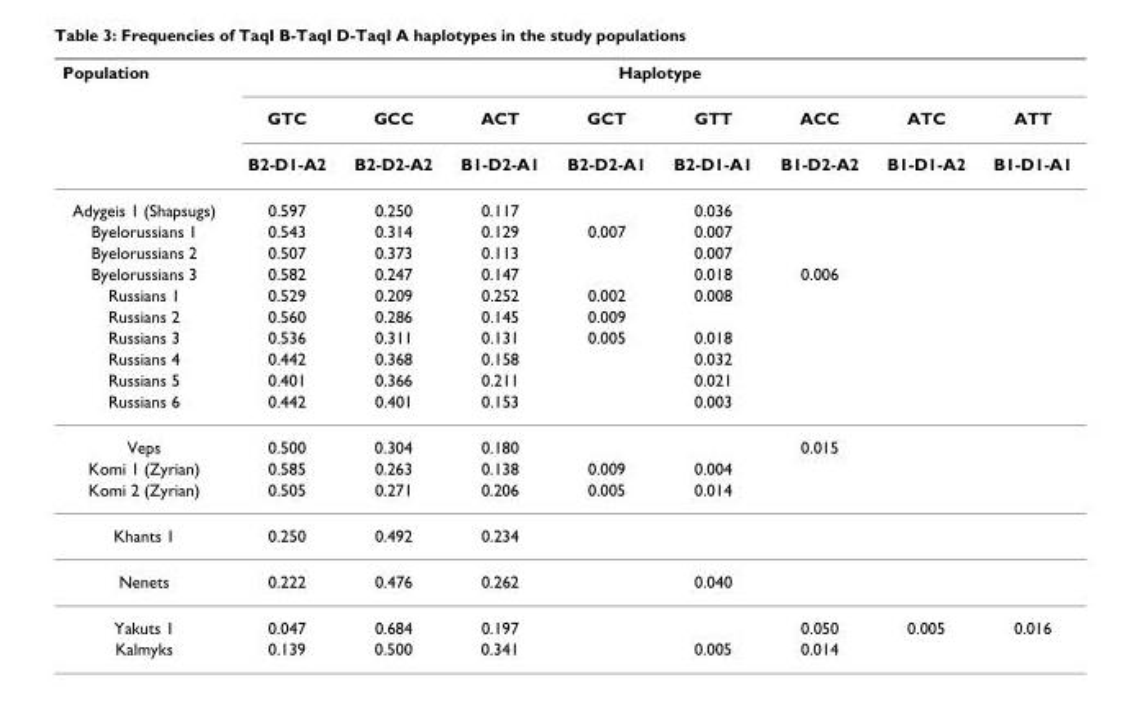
<table><thead><tr><td rowspan="3">Population</td><td colspan="8">Haplotype</td></tr><tr><td rowspan="2">GTC B2-D1-A2</td><td rowspan="2">GCC B2-D2-A2</td><td rowspan="2">ACT B1-D2-A1</td><td rowspan="2">GCT B2-D2-A1</td><td rowspan="2">GTT B2-D1-A1</td><td rowspan="2">ACC B1-D2-A2</td><td rowspan="2">ATC B1-D1-A2</td><td rowspan="2">ATT B1-D1-A1</td></tr><tr></tr></thead><tbody><tr><td>Adygeis 1 (Shapsugs)</td><td>0.597</td><td>0.250</td><td>0.117</td><td></td><td>0.036</td><td></td><td></td><td></td></tr><tr><td>Byelorussians 1</td><td>0.543</td><td>0.314</td><td>0.129</td><td>0.007</td><td>0.007</td><td></td><td></td><td></td></tr><tr><td>Byelorussians 2</td><td>0.507</td><td>0.373</td><td>0.113</td><td></td><td>0.007</td><td></td><td></td><td></td></tr><tr><td>Byelorussians 3</td><td>0.582</td><td>0.247</td><td>0.147</td><td></td><td>0.018</td><td>0.006</td><td></td><td></td></tr><tr><td>Russians 1</td><td>0.529</td><td>0.209</td><td>0.252</td><td>0.002</td><td>0.008</td><td></td><td></td><td></td></tr><tr><td>Russians 2</td><td>0.560</td><td>0.286</td><td>0.145</td><td>0.009</td><td></td><td></td><td></td><td></td></tr><tr><td>Russians 3</td><td>0.536</td><td>0.311</td><td>0.131</td><td>0.005</td><td>0.018</td><td></td><td></td><td></td></tr><tr><td>Russians 4</td><td>0.442</td><td>0.368</td><td>0.158</td><td></td><td>0.032</td><td></td><td></td><td></td></tr><tr><td>Russians 5</td><td>0.401</td><td>0.366</td><td>0.211</td><td></td><td>0.021</td><td></td><td></td><td></td></tr><tr><td>Russians 6</td><td>0.442</td><td>0.401</td><td>0.153</td><td></td><td>0.003</td><td></td><td></td><td></td></tr><tr><td>Veps</td><td>0.500</td><td>0.304</td><td>0.180</td><td></td><td></td><td>0.015</td><td></td><td></td></tr><tr><td>Komi 1 (Zyrian)</td><td>0.585</td><td>0.263</td><td>0.138</td><td>0.009</td><td>0.004</td><td></td><td></td><td></td></tr><tr><td>Komi 2 (Zyrian)</td><td>0.505</td><td>0.271</td><td>0.206</td><td>0.005</td><td>0.014</td><td></td><td></td><td></td></tr><tr><td>Khants 1</td><td>0.250</td><td>0.492</td><td>0.234</td><td></td><td></td><td></td><td></td><td></td></tr><tr><td>Nenets</td><td>0.222</td><td>0.476</td><td>0.262</td><td></td><td>0.040</td><td></td><td></td><td></td></tr><tr><td>Yakuts 1</td><td>0.047</td><td>0.684</td><td>0.197</td><td></td><td></td><td>0.050</td><td>0.005</td><td>0.016</td></tr><tr><td>Kalmyks</td><td>0.139</td><td>0.500</td><td>0.341</td><td></td><td>0.005</td><td>0.014</td><td></td><td></td></tr></tbody></table>